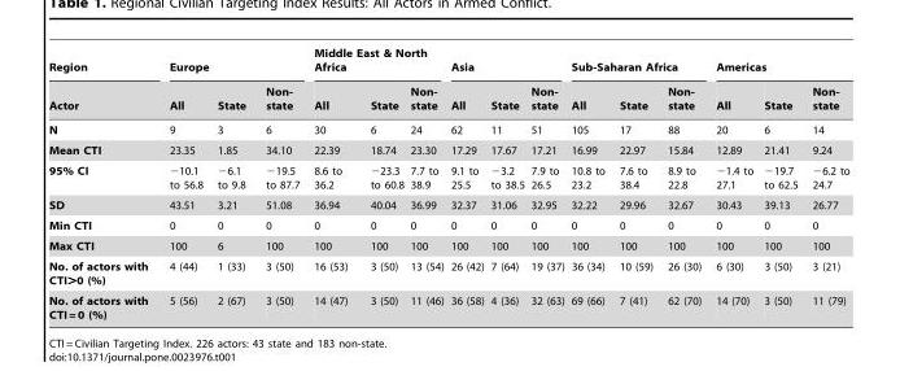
<table><thead><tr><td rowspan="2">Region Actor</td><td colspan="3">Europe</td><td colspan="3">Middle East &amp; North Africa</td><td colspan="3">Asia</td><td colspan="3">Sub-Saharan Africa</td><td colspan="3">Americas</td></tr><tr><td>All</td><td>State</td><td>Non- state</td><td>All</td><td>State</td><td>Non- state</td><td>All</td><td>State</td><td>Non- state</td><td>All</td><td>State</td><td>Non- state</td><td>All</td><td>State</td><td>Non- state</td></tr></thead><tbody><tr><td>N</td><td>9</td><td>3</td><td>6</td><td>30</td><td>6</td><td>24</td><td>62</td><td>11</td><td>51</td><td>105</td><td>17</td><td>88</td><td>20</td><td>6</td><td>14</td></tr><tr><td>Mean CTI</td><td>23.35</td><td>1.85</td><td>34.10</td><td>22.39</td><td>18.74</td><td>23.30</td><td>17.29</td><td>17.67</td><td>17.21</td><td>16.99</td><td>22.97</td><td>15.84</td><td>12.89</td><td>21.41</td><td>9.24</td></tr><tr><td>95% CI</td><td>−10.1 to 56.8</td><td>−6.1 to 9.8</td><td>−19.5 to 87.7</td><td>8.6 to 36.2</td><td>−23.3 to 60.8</td><td>7.7 to 38.9</td><td>9.1 to 25.5</td><td>−3.2 to 38.5</td><td>7.9 to 26.5</td><td>10.8 to 23.2</td><td>7.6 to 38.4</td><td>8.9 to 22.8</td><td>−1.4 to 27.1</td><td>−19.7 to 62.5</td><td>−6.2 to 24.7</td></tr><tr><td>SD</td><td>43.51</td><td>3.21</td><td>51.08</td><td>36.94</td><td>40.04</td><td>36.99</td><td>32.37</td><td>31.06</td><td>32.95</td><td>32.22</td><td>29.96</td><td>32.67</td><td>30.43</td><td>39.13</td><td>26.77</td></tr><tr><td>Min CTI</td><td>0</td><td>0</td><td>0</td><td>0</td><td>0</td><td>0</td><td>0</td><td>0</td><td>0</td><td>0</td><td>0</td><td>0</td><td>0</td><td>0</td><td>0</td></tr><tr><td>Max CTI</td><td>100</td><td>6</td><td>100</td><td>100</td><td>100</td><td>100</td><td>100</td><td>100</td><td>100</td><td>100</td><td>100</td><td>100</td><td>100</td><td>100</td><td>100</td></tr><tr><td>No. of actors with CTI&gt;0 (%)</td><td>4 (44)</td><td>1 (33)</td><td>3 (50)</td><td>16 (53)</td><td>3 (50)</td><td>13 (54)</td><td>26 (42)</td><td>7 (64)</td><td>19 (37)</td><td>36 (34)</td><td>10 (59)</td><td>26 (30)</td><td>6 (30)</td><td>3 (50)</td><td>3 (21)</td></tr><tr><td>No. of actors with CTI = 0 (%)</td><td>5 (56)</td><td>2 (67)</td><td>3 (50)</td><td>14 (47)</td><td>3 (50)</td><td>11 (46)</td><td>36 (58)</td><td>4 (36)</td><td>32 (63)</td><td>69 (66)</td><td>7 (41)</td><td>62 (70)</td><td>14 (70)</td><td>3 (50)</td><td>11 (79)</td></tr></tbody></table>